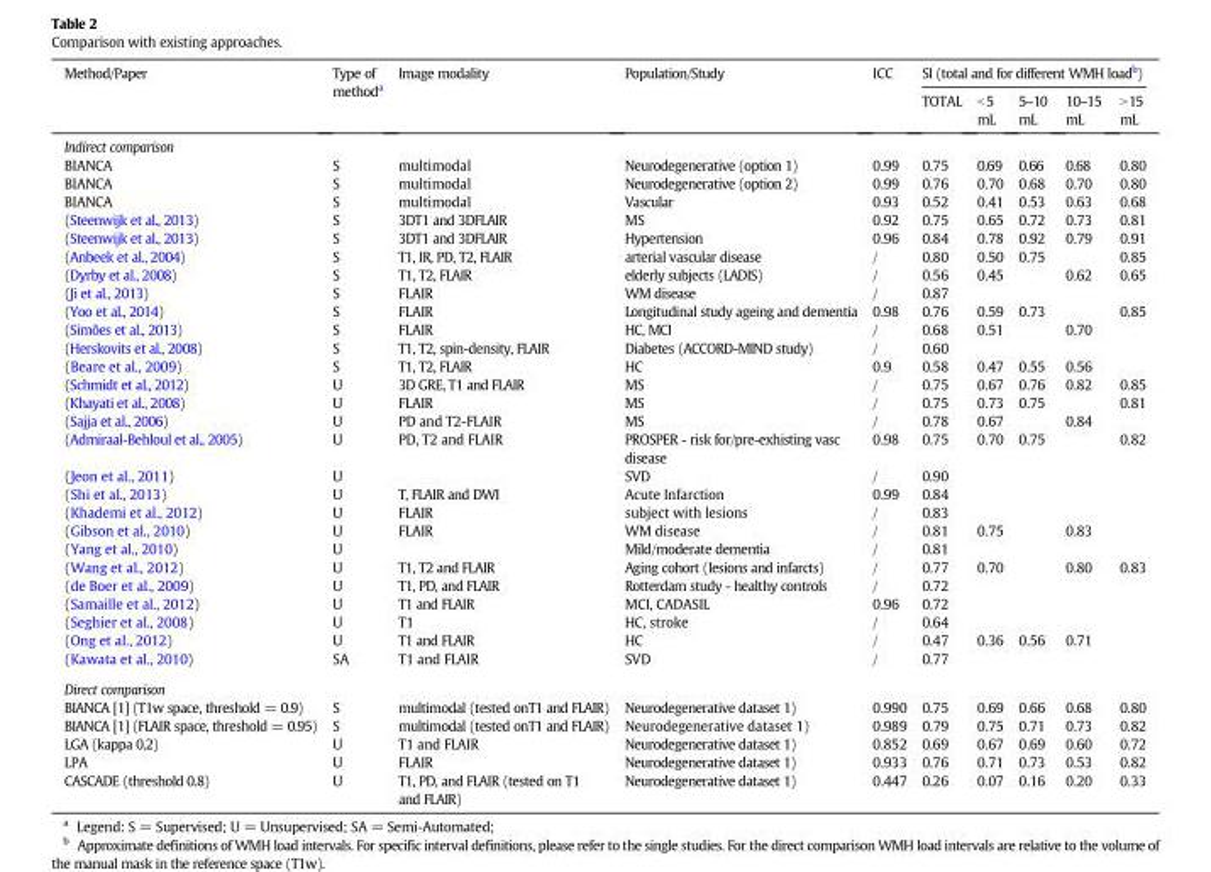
<table><thead><tr><td rowspan="2">Method/Paper</td><td rowspan="2">Type of method<sup>a</sup></td><td rowspan="2">Image modality</td><td rowspan="2">Population/Study</td><td rowspan="2">ICC</td><td colspan="5">SI (total and for different WMH load<sup>b</sup>)</td></tr><tr><td>TOTAL</td><td>&lt;5 mL</td><td>5–10 mL</td><td>10–15 mL</td><td>&gt;15 mL</td></tr></thead><tbody><tr><td colspan="10">Indirect comparison</td></tr><tr><td>BIANCA</td><td>S</td><td>multimodal</td><td>Neurodegenerative (option 1)</td><td>0.99</td><td>0.75</td><td>0.69</td><td>0.66</td><td>0.68</td><td>0.80</td></tr><tr><td>BIANCA</td><td>S</td><td>multimodal</td><td>Neurodegenerative (option 2)</td><td>0.99</td><td>0.76</td><td>0.70</td><td>0.68</td><td>0.70</td><td>0.80</td></tr><tr><td>BIANCA</td><td>S</td><td>multimodal</td><td>Vascular</td><td>0.93</td><td>0.52</td><td>0.41</td><td>0.53</td><td>0.63</td><td>0.68</td></tr><tr><td>(Steenwijk et al., 2013)</td><td>S</td><td>3DT1 and 3DFLAIR</td><td>MS</td><td>0.92</td><td>0.75</td><td>0.65</td><td>0.72</td><td>0.73</td><td>0.81</td></tr><tr><td>(Steenwijk et al., 2013)</td><td>S</td><td>3DT1 and 3DFLAIR</td><td>Hypertension</td><td>0.96</td><td>0.84</td><td>0.78</td><td>0.92</td><td>0.79</td><td>0.91</td></tr><tr><td>(Anbeek et al., 2004)</td><td>S</td><td>T1, IR, PD, T2, FLAIR</td><td>arterial vascular disease</td><td>/</td><td>0.80</td><td>0.50</td><td colspan="2">0.75</td><td>0.85</td></tr><tr><td>(Dyrby et al., 2008)</td><td>S</td><td>T1, T2, FLAIR</td><td>elderly subjects (LADIS)</td><td>/</td><td>0.56</td><td colspan="2">0.45</td><td>0.62</td><td>0.65</td></tr><tr><td>(Ji et al., 2013)</td><td>S</td><td>FLAIR</td><td>WM disease</td><td>/</td><td>0.87</td><td colspan="4"></td></tr><tr><td>(Yoo et al., 2014)</td><td>S</td><td>FLAIR</td><td>Longitudinal study ageing and dementia</td><td>0.98</td><td>0.76</td><td>0.59</td><td colspan="2">0.73</td><td>0.85</td></tr><tr><td>(Simões et al., 2013)</td><td>S</td><td>FLAIR</td><td>HC, MCI</td><td>/</td><td>0.68</td><td colspan="2">0.51</td><td>0.70</td><td></td></tr><tr><td>(Herskovits et al., 2008)</td><td>S</td><td>T1, T2, spin-density, FLAIR</td><td>Diabetes (ACCORD-MIND study)</td><td>/</td><td>0.60</td><td colspan="4"></td></tr><tr><td>(Beare et al., 2009)</td><td>S</td><td>T1, T2, FLAIR</td><td>HC</td><td>0.9</td><td>0.58</td><td>0.47</td><td>0.55</td><td colspan="2">0.56</td></tr><tr><td>(Schmidt et al., 2012)</td><td>U</td><td>3D GRE, T1 and FLAIR</td><td>MS</td><td>/</td><td>0.75</td><td>0.67</td><td>0.76</td><td>0.82</td><td>0.85</td></tr><tr><td>(Khayati et al., 2008)</td><td>U</td><td>FLAIR</td><td>MS</td><td>/</td><td>0.75</td><td>0.73</td><td colspan="2">0.75</td><td>0.81</td></tr><tr><td>(Sajja et al., 2006)</td><td>U</td><td>PD and T2-FLAIR</td><td>MS</td><td>/</td><td>0.78</td><td colspan="2">0.67</td><td colspan="2">0.84</td></tr><tr><td>(Admiraal-Behloul et al., 2005)</td><td>U</td><td>PD, T2 and FLAIR</td><td>PROSPER - risk for/pre-exhisting vasc disease</td><td>0.98</td><td>0.75</td><td>0.70</td><td colspan="2">0.75</td><td>0.82</td></tr><tr><td>(Jeon et al., 2011)</td><td>U</td><td></td><td>SVD</td><td>/</td><td>0.90</td><td colspan="4"></td></tr><tr><td>(Shi et al., 2013)</td><td>U</td><td>T, FLAIR and DWI</td><td>Acute Infarction</td><td>0.99</td><td>0.84</td><td colspan="4"></td></tr><tr><td>(Khademi et al., 2012)</td><td>U</td><td>FLAIR</td><td>subject with lesions</td><td>/</td><td>0.83</td><td colspan="4"></td></tr><tr><td>(Gibson et al., 2010)</td><td>U</td><td>FLAIR</td><td>WM disease</td><td>/</td><td>0.81</td><td colspan="2">0.75</td><td colspan="2">0.83</td></tr><tr><td>(Yang et al., 2010)</td><td>U</td><td></td><td>Mild/moderate dementia</td><td>/</td><td>0.81</td><td colspan="4"></td></tr><tr><td>(Wang et al., 2012)</td><td>U</td><td>T1, T2 and FLAIR</td><td>Aging cohort (lesions and infarcts)</td><td>/</td><td>0.77</td><td colspan="2">0.70</td><td>0.80</td><td>0.83</td></tr><tr><td>(de Boer et al., 2009)</td><td>U</td><td>T1, PD, and FLAIR</td><td>Rotterdam study - healthy controls</td><td>/</td><td>0.72</td><td colspan="4"></td></tr><tr><td>(Samaille et al., 2012)</td><td>U</td><td>T1 and FLAIR</td><td>MCI, CADASIL</td><td>0.96</td><td>0.72</td><td colspan="4"></td></tr><tr><td>(Seghier et al., 2008)</td><td>U</td><td>T1</td><td>HC, stroke</td><td>/</td><td>0.64</td><td colspan="4"></td></tr><tr><td>(Ong et al., 2012)</td><td>U</td><td>T1 and FLAIR</td><td>HC</td><td>/</td><td>0.47</td><td>0.36</td><td>0.56</td><td colspan="2">0.71</td></tr><tr><td>(Kawata et al., 2010)</td><td>SA</td><td>T1 and FLAIR</td><td>SVD</td><td>/</td><td>0.77</td><td colspan="4"></td></tr><tr><td colspan="10">Direct comparison</td></tr><tr><td>BIANCA [1] (T1w space, threshold = 0.9)</td><td>S</td><td>multimodal (tested onT1 and FLAIR)</td><td>Neurodegenerative dataset 1)</td><td>0.990</td><td>0.75</td><td>0.69</td><td>0.66</td><td>0.68</td><td>0.80</td></tr><tr><td>BIANCA [1] (FLAIR space, threshold = 0.95)</td><td>S</td><td>multimodal (tested onT1 and FLAIR)</td><td>Neurodegenerative dataset 1)</td><td>0.989</td><td>0.79</td><td>0.75</td><td>0.71</td><td>0.73</td><td>0.82</td></tr><tr><td>LGA (kappa 0.2)</td><td>U</td><td>T1 and FLAIR</td><td>Neurodegenerative dataset 1)</td><td>0.852</td><td>0.69</td><td>0.67</td><td>0.69</td><td>0.60</td><td>0.72</td></tr><tr><td>LPA</td><td>U</td><td>FLAIR</td><td>Neurodegenerative dataset 1)</td><td>0.933</td><td>0.76</td><td>0.71</td><td>0.73</td><td>0.53</td><td>0.82</td></tr><tr><td>CASCADE (threshold 0.8)</td><td>U</td><td>T1, PD, and FLAIR (tested on T1 and FLAIR)</td><td>Neurodegenerative dataset 1)</td><td>0.447</td><td>0.26</td><td>0.07</td><td>0.16</td><td>0.20</td><td>0.33</td></tr></tbody></table>